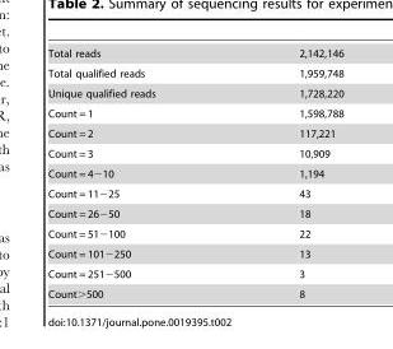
<table><tbody><tr><td>Total reads</td><td>2,142,146</td></tr><tr><td>Total qualified reads</td><td>1,959,748</td></tr><tr><td>Unique qualified reads</td><td>1,728,220</td></tr><tr><td>Count = 1</td><td>1,598,788</td></tr><tr><td>Count = 2</td><td>117,221</td></tr><tr><td>Count = 3</td><td>10,909</td></tr><tr><td>Count = 4−10</td><td>1,194</td></tr><tr><td>Count = 11−25</td><td>43</td></tr><tr><td>Count = 26−50</td><td>18</td></tr><tr><td>Count = 51−100</td><td>22</td></tr><tr><td>Count = 101−250</td><td>13</td></tr><tr><td>Count = 251−500</td><td>3</td></tr><tr><td>Count&gt;500</td><td>8</td></tr></tbody></table>